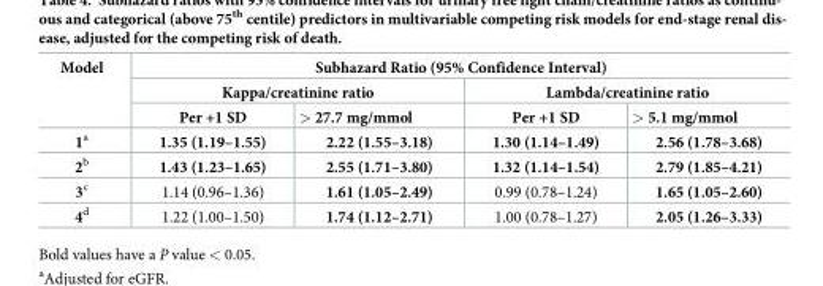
<table><thead><tr><td rowspan="3">Model</td><td colspan="4">Subhazard Ratio (95% Confidence Interval)</td></tr><tr><td colspan="2">Kappa/creatinine ratio</td><td colspan="2">Lambda/creatinine ratio</td></tr><tr><td>Per +1 SD</td><td>&gt; 27.7 mg/mmol</td><td>Per +1 SD</td><td>&gt; 5.1 mg/mmol</td></tr></thead><tbody><tr><td>1<sup>a</sup></td><td>1.35 (1.19–1.55)</td><td>2.22 (1.55–3.18)</td><td>1.30 (1.14–1.49)</td><td>2.56 (1.78–3.68)</td></tr><tr><td>2<sup>b</sup></td><td>1.43 (1.23–1.65)</td><td>2.55 (1.71–3.80)</td><td>1.32 (1.14–1.54)</td><td>2.79 (1.85–4.21)</td></tr><tr><td>3<sup>c</sup></td><td>1.14 (0.96–1.36)</td><td>1.61 (1.05–2.49)</td><td>0.99 (0.78–1.24)</td><td>1.65 (1.05–2.60)</td></tr><tr><td>4<sup>d</sup></td><td>1.22 (1.00–1.50)</td><td>1.74 (1.12–2.71)</td><td>1.00 (0.78–1.27)</td><td>2.05 (1.26–3.33)</td></tr></tbody></table>